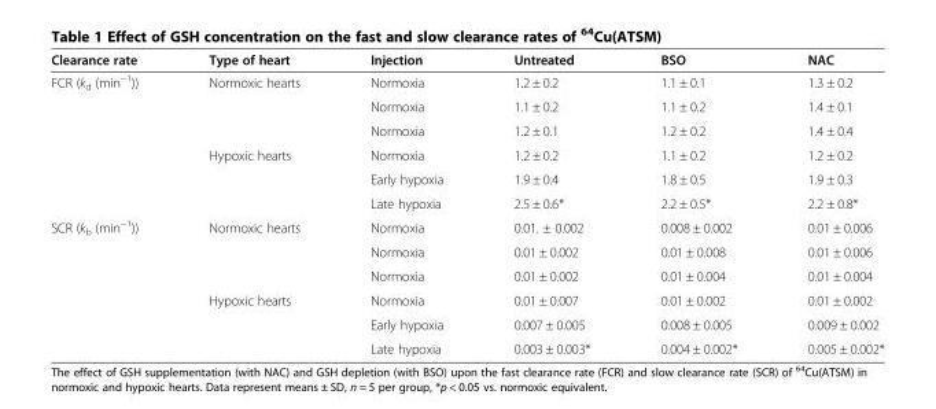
<table><thead><tr><td>Clearance rate</td><td>Type of heart</td><td>Injection</td><td>Untreated</td><td>BSO</td><td>NAC</td></tr></thead><tbody><tr><td rowspan="6">FCR (k<sub>d</sub> (min<sup>−1</sup>))</td><td rowspan="3">Normoxic hearts</td><td>Normoxia</td><td>1.2 ± 0.2</td><td>1.1 ± 0.1</td><td>1.3 ± 0.2</td></tr><tr><td>Normoxia</td><td>1.1 ± 0.2</td><td>1.1 ± 0.2</td><td>1.4 ± 0.1</td></tr><tr><td>Normoxia</td><td>1.2 ± 0.1</td><td>1.2 ± 0.2</td><td>1.4 ± 0.4</td></tr><tr><td rowspan="3">Hypoxic hearts</td><td>Normoxia</td><td>1.2 ± 0.2</td><td>1.1 ± 0.2</td><td>1.2 ± 0.2</td></tr><tr><td>Early hypoxia</td><td>1.9 ± 0.4</td><td>1.8 ± 0.5</td><td>1.9 ± 0.3</td></tr><tr><td>Late hypoxia</td><td>2.5 ± 0.6*</td><td>2.2 ± 0.5*</td><td>2.2 ± 0.8*</td></tr><tr><td rowspan="6">SCR (k<sub>b</sub> (min<sup>−1</sup>))</td><td rowspan="3">Normoxic hearts</td><td>Normoxia</td><td>0.01. ± 0.002</td><td>0.008 ± 0.002</td><td>0.01 ± 0.006</td></tr><tr><td>Normoxia</td><td>0.01 ± 0.002</td><td>0.01 ± 0.008</td><td>0.01 ± 0.006</td></tr><tr><td>Normoxia</td><td>0.01 ± 0.002</td><td>0.01 ± 0.004</td><td>0.01 ± 0.004</td></tr><tr><td rowspan="3">Hypoxic hearts</td><td>Normoxia</td><td>0.01 ± 0.007</td><td>0.01 ± 0.002</td><td>0.01 ± 0.002</td></tr><tr><td>Early hypoxia</td><td>0.007 ± 0.005</td><td>0.008 ± 0.005</td><td>0.009 ± 0.002</td></tr><tr><td>Late hypoxia</td><td>0.003 ± 0.003*</td><td>0.004 ± 0.002*</td><td>0.005 ± 0.002*</td></tr></tbody></table>